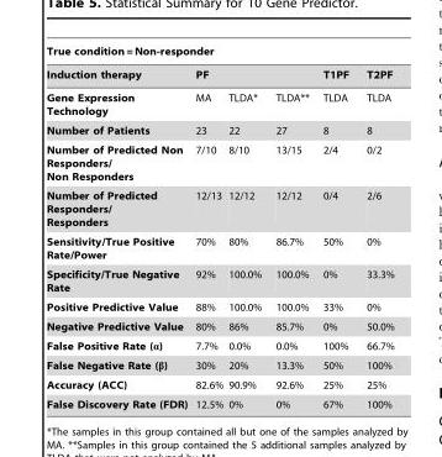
<table><thead><tr><td colspan="6">True condition = Non-responder</td></tr><tr><td rowspan="2">Induction therapy Gene Expression Technology</td><td colspan="3">PF</td><td rowspan="2">T1PF TLDA</td><td rowspan="2">T2PF TLDA</td></tr><tr><td>MA</td><td>TLDA*</td><td>TLDA**</td></tr></thead><tbody><tr><td>Number of Patients</td><td>23</td><td>22</td><td>27</td><td>8</td><td>8</td></tr><tr><td>Number of Predicted Non Responders/ Non Responders</td><td>7/10</td><td>8/10</td><td>13/15</td><td>2/4</td><td>0/2</td></tr><tr><td>Number of Predicted Responders/ Responders</td><td>12/13</td><td>12/12</td><td>12/12</td><td>0/4</td><td>2/6</td></tr><tr><td>Sensitivity/True Positive Rate/Power</td><td>70%</td><td>80%</td><td>86.7%</td><td>50%</td><td>0%</td></tr><tr><td>Specificity/True Negative Rate</td><td>92%</td><td>100.0%</td><td>100.0%</td><td>0%</td><td>33.3%</td></tr><tr><td>Positive Predictive Value</td><td>88%</td><td>100.0%</td><td>100.0%</td><td>33%</td><td>0%</td></tr><tr><td>Negative Predictive Value</td><td>80%</td><td>86%</td><td>85.7%</td><td>0%</td><td>50.0%</td></tr><tr><td>False Positive Rate (α)</td><td>7.7%</td><td>0.0%</td><td>0.0%</td><td>100%</td><td>66.7%</td></tr><tr><td>False Negative Rate (β)</td><td>30%</td><td>20%</td><td>13.3%</td><td>50%</td><td>100%</td></tr><tr><td>Accuracy (ACC)</td><td>82.6%</td><td>90.9%</td><td>92.6%</td><td>25%</td><td>25%</td></tr><tr><td>False Discovery Rate (FDR)</td><td>12.5%</td><td>0%</td><td>0%</td><td>67%</td><td>100%</td></tr></tbody></table>